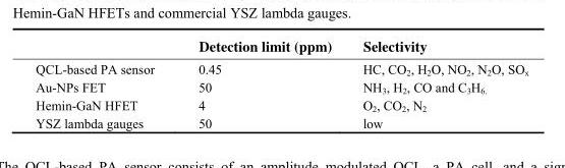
<table><thead><tr><td></td><td>Detection limit (ppm)</td><td>Selectivity</td></tr></thead><tbody><tr><td>QCL-based PA sensor</td><td>0.45</td><td>HC, CO<sub>2</sub>, H<sub>2</sub>O, NO<sub>2</sub>, N<sub>2</sub>O, SO<sub>x</sub></td></tr><tr><td>Au-NPs FET</td><td>50</td><td>NH<sub>3</sub>, H<sub>2</sub>, CO and C<sub>3</sub>H<sub>6</sub>.</td></tr><tr><td>Hemin-GaN HFET</td><td>4</td><td>O<sub>2</sub>, CO<sub>2</sub>, N<sub>2</sub></td></tr><tr><td>YSZ lambda gauges</td><td>50</td><td>low</td></tr></tbody></table>